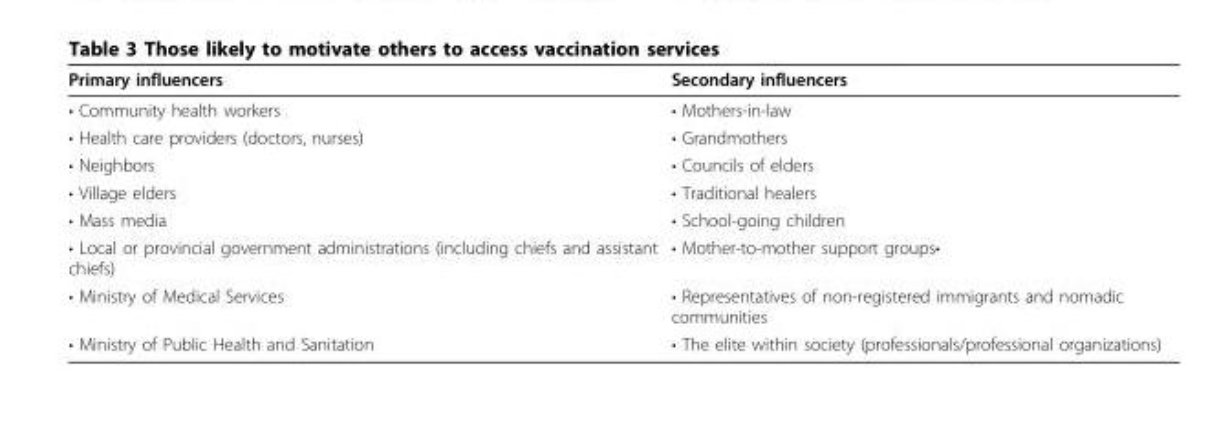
<table><thead><tr><td>Primary influencers</td><td>Secondary influencers</td></tr></thead><tbody><tr><td>• Community health workers</td><td>• Mothers-in-law</td></tr><tr><td>• Health care providers (doctors, nurses)</td><td>• Grandmothers</td></tr><tr><td>• Neighbors</td><td>• Councils of elders</td></tr><tr><td>• Village elders</td><td>• Traditional healers</td></tr><tr><td>• Mass media</td><td>• School-going children</td></tr><tr><td>• Local or provincial government administrations (including chiefs and assistant chiefs)</td><td>• Mother-to-mother support groups•</td></tr><tr><td>• Ministry of Medical Services</td><td>• Representatives of non-registered immigrants and nomadic communities</td></tr><tr><td>• Ministry of Public Health and Sanitation</td><td>• The elite within society (professionals/professional organizations)</td></tr></tbody></table>